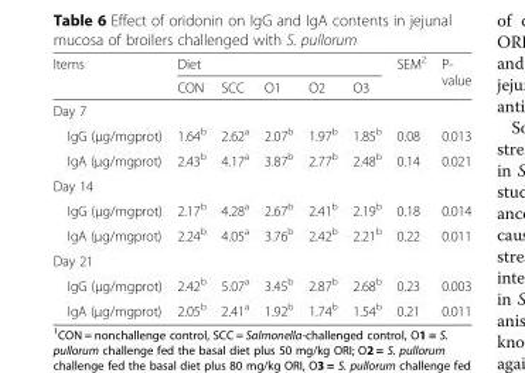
<table><thead><tr><td rowspan="2">Items</td><td colspan="5">Diet</td><td rowspan="2">SEM<sup>2</sup></td><td rowspan="2">P- value</td></tr><tr><td>CON</td><td>SCC</td><td>O1</td><td>O2</td><td>O3</td></tr></thead><tbody><tr><td colspan="8">Day 7</td></tr><tr><td>IgG (μg/mgprot)</td><td>1.64<sup>b</sup></td><td>2.62<sup>a</sup></td><td>2.07<sup>b</sup></td><td>1.97<sup>b</sup></td><td>1.85<sup>b</sup></td><td>0.08</td><td>0.013</td></tr><tr><td>IgA (μg/mgprot)</td><td>2.43<sup>b</sup></td><td>4.17<sup>a</sup></td><td>3.87<sup>b</sup></td><td>2.77<sup>b</sup></td><td>2.48<sup>b</sup></td><td>0.14</td><td>0.021</td></tr><tr><td colspan="8">Day 14</td></tr><tr><td>IgG (μg/mgprot)</td><td>2.17<sup>b</sup></td><td>4.28<sup>a</sup></td><td>2.67<sup>b</sup></td><td>2.41<sup>b</sup></td><td>2.19<sup>b</sup></td><td>0.18</td><td>0.014</td></tr><tr><td>IgA (μg/mgprot)</td><td>2.24<sup>b</sup></td><td>4.05<sup>a</sup></td><td>3.76<sup>b</sup></td><td>2.42<sup>b</sup></td><td>2.21<sup>b</sup></td><td>0.22</td><td>0.011</td></tr><tr><td colspan="8">Day 21</td></tr><tr><td>IgG (μg/mgprot)</td><td>2.42<sup>b</sup></td><td>5.07<sup>a</sup></td><td>3.45<sup>b</sup></td><td>2.87<sup>b</sup></td><td>2.68<sup>b</sup></td><td>0.23</td><td>0.003</td></tr><tr><td>IgA (μg/mgprot)</td><td>2.05<sup>b</sup></td><td>2.41<sup>a</sup></td><td>1.92<sup>b</sup></td><td>1.74<sup>b</sup></td><td>1.54<sup>b</sup></td><td>0.21</td><td>0.011</td></tr></tbody></table>